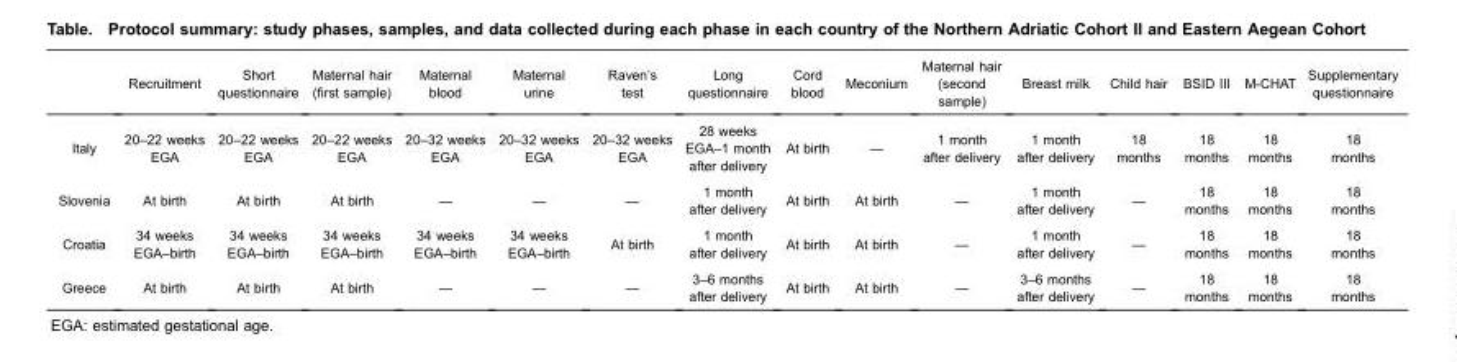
<table><thead><tr><td></td><td>Recruitment</td><td>Short questionnaire</td><td>Maternal hair (first sample)</td><td>Maternal blood</td><td>Maternal urine</td><td>Raven’s test</td><td>Long questionnaire</td><td>Cord blood</td><td>Meconium</td><td>Maternal hair (second sample)</td><td>Breast milk</td><td>Child hair</td><td>BSID III</td><td>M-CHAT</td><td>Supplementary questionnaire</td></tr></thead><tbody><tr><td>Italy</td><td>20–22 weeks EGA</td><td>20–22 weeks EGA</td><td>20–22 weeks EGA</td><td>20–32 weeks EGA</td><td>20–32 weeks EGA</td><td>20–32 weeks EGA</td><td>28 weeks EGA–1 month after delivery</td><td>At birth</td><td>—</td><td>1 month after delivery</td><td>1 month after delivery</td><td>18 months</td><td>18 months</td><td>18 months</td><td>18 months</td></tr><tr><td>Slovenia</td><td>At birth</td><td>At birth</td><td>At birth</td><td>—</td><td>—</td><td>—</td><td>1 month after delivery</td><td>At birth</td><td>At birth</td><td>—</td><td>1 month after delivery</td><td>—</td><td>18 months</td><td>18 months</td><td>18 months</td></tr><tr><td>Croatia</td><td>34 weeks EGA–birth</td><td>34 weeks EGA–birth</td><td>34 weeks EGA–birth</td><td>34 weeks EGA–birth</td><td>34 weeks EGA–birth</td><td>At birth</td><td>1 month after delivery</td><td>At birth</td><td>At birth</td><td>—</td><td>1 month after delivery</td><td>—</td><td>18 months</td><td>18 months</td><td>18 months</td></tr><tr><td>Greece</td><td>At birth</td><td>At birth</td><td>At birth</td><td>—</td><td>—</td><td>—</td><td>3–6 months after delivery</td><td>At birth</td><td>At birth</td><td>—</td><td>3–6 months after delivery</td><td>—</td><td>18 months</td><td>18 months</td><td>18 months</td></tr></tbody></table>